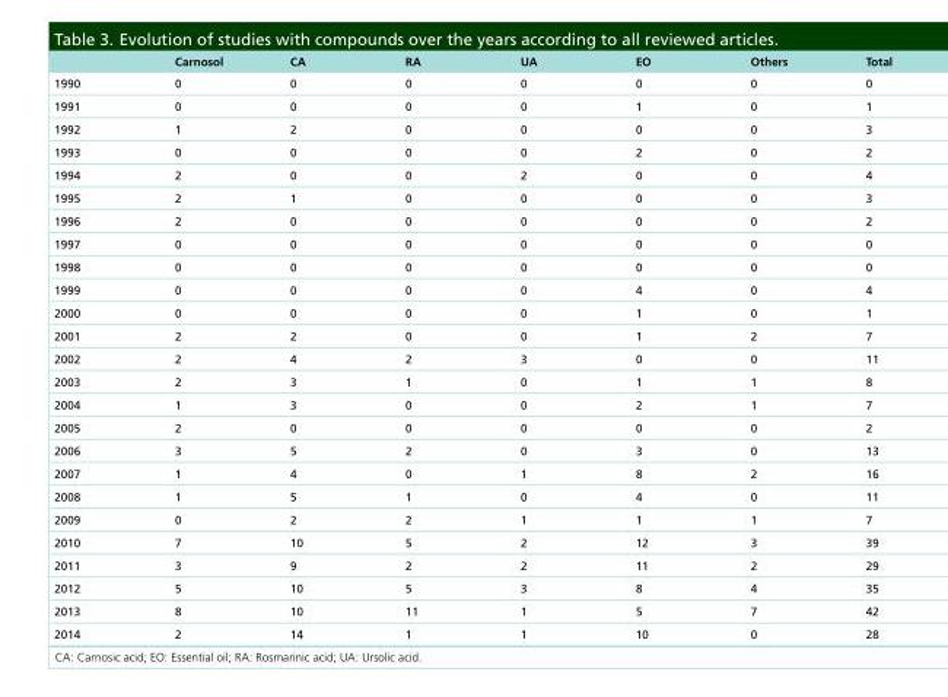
<table><thead><tr><td></td><td>Carnosol</td><td>CA</td><td>RA</td><td>UA</td><td>EO</td><td>Others</td><td>Total</td></tr></thead><tbody><tr><td>1990</td><td>0</td><td>0</td><td>0</td><td>0</td><td>0</td><td>0</td><td>0</td></tr><tr><td>1991</td><td>0</td><td>0</td><td>0</td><td>0</td><td>1</td><td>0</td><td>1</td></tr><tr><td>1992</td><td>1</td><td>2</td><td>0</td><td>0</td><td>0</td><td>0</td><td>3</td></tr><tr><td>1993</td><td>0</td><td>0</td><td>0</td><td>0</td><td>2</td><td>0</td><td>2</td></tr><tr><td>1994</td><td>2</td><td>0</td><td>0</td><td>2</td><td>0</td><td>0</td><td>4</td></tr><tr><td>1995</td><td>2</td><td>1</td><td>0</td><td>0</td><td>0</td><td>0</td><td>3</td></tr><tr><td>1996</td><td>2</td><td>0</td><td>0</td><td>0</td><td>0</td><td>0</td><td>2</td></tr><tr><td>1997</td><td>0</td><td>0</td><td>0</td><td>0</td><td>0</td><td>0</td><td>0</td></tr><tr><td>1998</td><td>0</td><td>0</td><td>0</td><td>0</td><td>0</td><td>0</td><td>0</td></tr><tr><td>1999</td><td>0</td><td>0</td><td>0</td><td>0</td><td>4</td><td>0</td><td>4</td></tr><tr><td>2000</td><td>0</td><td>0</td><td>0</td><td>0</td><td>1</td><td>0</td><td>1</td></tr><tr><td>2001</td><td>2</td><td>2</td><td>0</td><td>0</td><td>1</td><td>2</td><td>7</td></tr><tr><td>2002</td><td>2</td><td>4</td><td>2</td><td>3</td><td>0</td><td>0</td><td>11</td></tr><tr><td>2003</td><td>2</td><td>3</td><td>1</td><td>0</td><td>1</td><td>1</td><td>8</td></tr><tr><td>2004</td><td>1</td><td>3</td><td>0</td><td>0</td><td>2</td><td>1</td><td>7</td></tr><tr><td>2005</td><td>2</td><td>0</td><td>0</td><td>0</td><td>0</td><td>0</td><td>2</td></tr><tr><td>2006</td><td>3</td><td>5</td><td>2</td><td>0</td><td>3</td><td>0</td><td>13</td></tr><tr><td>2007</td><td>1</td><td>4</td><td>0</td><td>1</td><td>8</td><td>2</td><td>16</td></tr><tr><td>2008</td><td>1</td><td>5</td><td>1</td><td>0</td><td>4</td><td>0</td><td>11</td></tr><tr><td>2009</td><td>0</td><td>2</td><td>2</td><td>1</td><td>1</td><td>1</td><td>7</td></tr><tr><td>2010</td><td>7</td><td>10</td><td>5</td><td>2</td><td>12</td><td>3</td><td>39</td></tr><tr><td>2011</td><td>3</td><td>9</td><td>2</td><td>2</td><td>11</td><td>2</td><td>29</td></tr><tr><td>2012</td><td>5</td><td>10</td><td>5</td><td>3</td><td>8</td><td>4</td><td>35</td></tr><tr><td>2013</td><td>8</td><td>10</td><td>11</td><td>1</td><td>5</td><td>7</td><td>42</td></tr><tr><td>2014</td><td>2</td><td>14</td><td>1</td><td>1</td><td>10</td><td>0</td><td>28</td></tr></tbody></table>